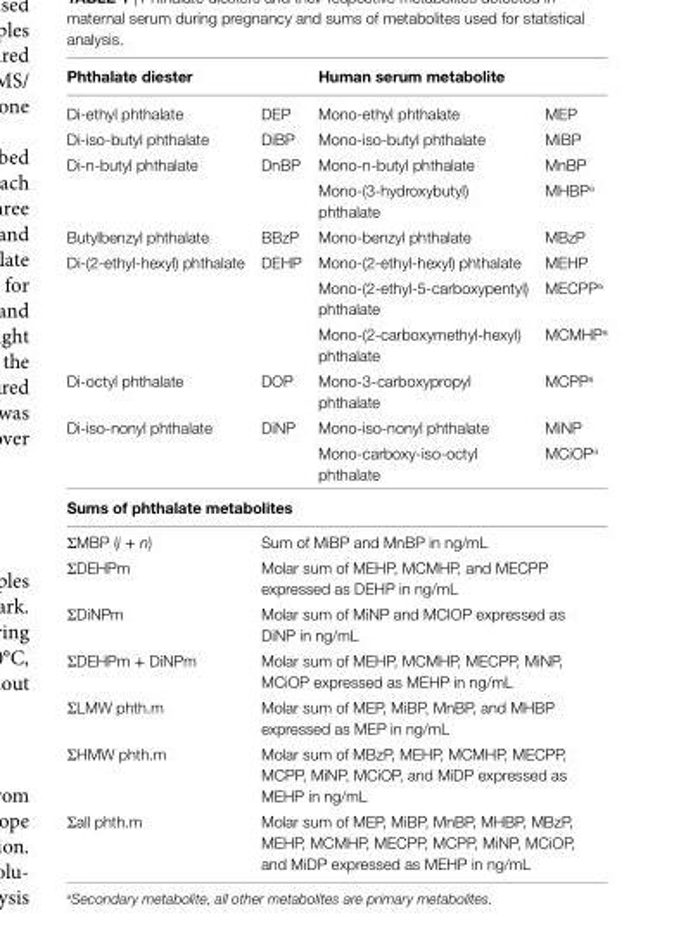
<table><thead><tr><td>Phthalate diester</td><td></td><td>human serum metabolite</td><td></td></tr></thead><tbody><tr><td>Di-ethyl phthalate</td><td>DEP</td><td>Mono-ethyl phthalate</td><td>MEP</td></tr><tr><td>Di-iso-butyl phthalate</td><td>DiBP</td><td>Mono-iso-butyl phthalate</td><td>MiBP</td></tr><tr><td rowspan="2">Di-n-butyl phthalate</td><td>DnBP</td><td>Mono-n-butyl phthalate</td><td>MnBP</td></tr><tr><td></td><td>Mono-(3-hydroxybutyl) phthalate</td><td>MHBP<sup>a</sup></td></tr><tr><td>Butylbenzyl phthalate</td><td>BBzP</td><td>Mono-benzyl phthalate</td><td>MBzP</td></tr><tr><td rowspan="3">Di-(2-ethyl-hexyl) phthalate</td><td>DEHP</td><td>Mono-(2-ethyl-hexyl) phthalate</td><td>MEHP</td></tr><tr><td></td><td>Mono-(2-ethyl-5-carboxypentyl) phthalate</td><td>MECPP<sup>a</sup></td></tr><tr><td></td><td>Mono-(2-carboxymethyl-hexyl) phthalate</td><td>MCMHP<sup>a</sup></td></tr><tr><td>Di-octyl phthalate</td><td>DOP</td><td>Mono-3-carboxypropyl phthalate</td><td>MCPP<sup>a</sup></td></tr><tr><td rowspan="2">Di-iso-nonyl phthalate</td><td>DiNP</td><td>Mono-iso-nonyl phthalate</td><td>MiNP</td></tr><tr><td></td><td>Mono-carboxy-iso-octyl phthalate</td><td>MCiOP<sup>a</sup></td></tr><tr><td colspan="4">sums of phthalate metabolites</td></tr><tr><td>ΣMBP (i + n)</td><td colspan="3">Sum of MiBP and MnBP in ng/mL</td></tr><tr><td>ΣDEHPm</td><td colspan="3">Molar sum of MEHP, MCMHP, and MECPP expressed as DEHP in ng/mL</td></tr><tr><td>ΣDiNPm</td><td colspan="3">Molar sum of MiNP and MCIOP expressed as DiNP in ng/mL</td></tr><tr><td>ΣDEHPm + DiNPm</td><td colspan="3">Molar sum of MEHP, MCMHP, MECPP, MiNP, MCiOP expressed as MEHP in ng/mL</td></tr><tr><td>ΣLMW phth.m</td><td colspan="3">Molar sum of MEP, MiBP, MnBP, and MHBP expressed as MEP in ng/mL</td></tr><tr><td>ΣHMW phth.m</td><td colspan="3">Molar sum of MBzP, MEHP, MCMHP, MECPP, MCPP, MiNP, MCiOP, and MiDP expressed as MEHP in ng/mL</td></tr><tr><td>Σall phth.m</td><td colspan="3">Molar sum of MEP, MiBP, MnBP, MHBP, MBzP, MEHP, MCMHP, MECPP, MCPP, MiNP, MCiOP, and MiDP expressed as MEHP in ng/mL</td></tr></tbody></table>